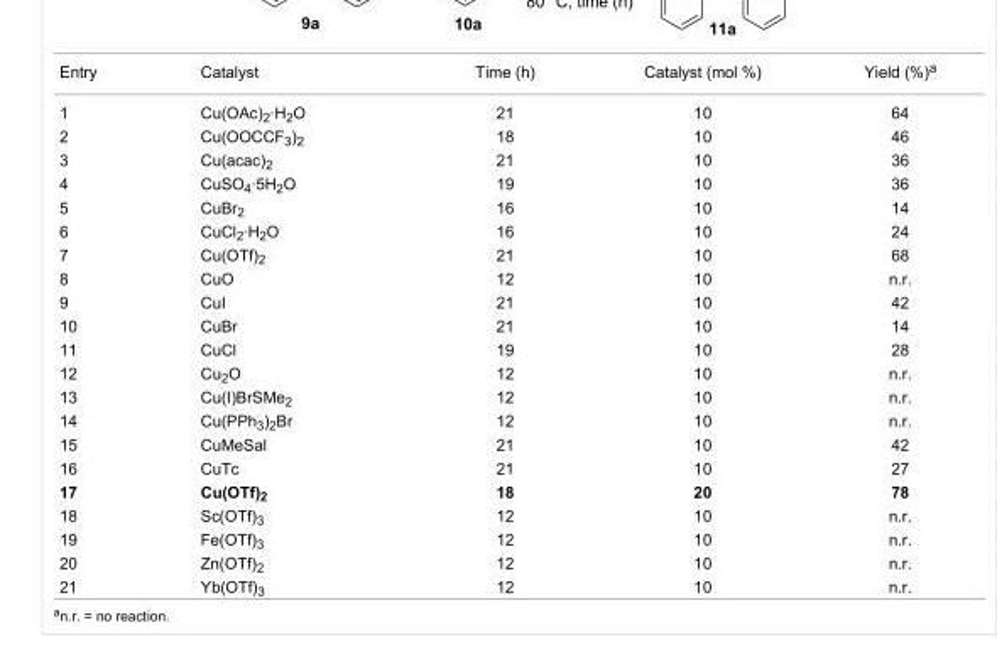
<table><tbody><tr><td>Entry</td><td>Catalyst</td><td>Time (h)</td><td>Catalyst (mol %)</td><td>Yield (%)<sup>a</sup></td></tr><tr><td>1</td><td>Cu(OAc)<sub>2</sub>·H<sub>2</sub>O</td><td>21</td><td>10</td><td>64</td></tr><tr><td>2</td><td>Cu(OOCCF<sub>3</sub>)<sub>2</sub></td><td>18</td><td>10</td><td>46</td></tr><tr><td>3</td><td>Cu(acac)<sub>2</sub></td><td>21</td><td>10</td><td>36</td></tr><tr><td>4</td><td>CuSO<sub>4</sub>·5H<sub>2</sub>O</td><td>19</td><td>10</td><td>36</td></tr><tr><td>5</td><td>CuBr<sub>2</sub></td><td>16</td><td>10</td><td>14</td></tr><tr><td>6</td><td>CuCl<sub>2</sub>·H<sub>2</sub>O</td><td>16</td><td>10</td><td>24</td></tr><tr><td>7</td><td>Cu(OTf)<sub>2</sub></td><td>21</td><td>10</td><td>68</td></tr><tr><td>8</td><td>CuO</td><td>12</td><td>10</td><td>n.r.</td></tr><tr><td>9</td><td>CuI</td><td>21</td><td>10</td><td>42</td></tr><tr><td>10</td><td>CuBr</td><td>21</td><td>10</td><td>14</td></tr><tr><td>11</td><td>CuCl</td><td>19</td><td>10</td><td>28</td></tr><tr><td>12</td><td>Cu<sub>2</sub>O</td><td>12</td><td>10</td><td>n.r.</td></tr><tr><td>13</td><td>Cu(I)BrSMe<sub>2</sub></td><td>12</td><td>10</td><td>n.r.</td></tr><tr><td>14</td><td>Cu(PPh<sub>3</sub>)<sub>2</sub>Br</td><td>12</td><td>10</td><td>n.r.</td></tr><tr><td>15</td><td>CuMeSal</td><td>21</td><td>10</td><td>42</td></tr><tr><td>16</td><td>CuTc</td><td>21</td><td>10</td><td>27</td></tr><tr><td>17</td><td>Cu(OTf)<sub>2</sub></td><td>18</td><td>20</td><td>78</td></tr><tr><td>18</td><td>Sc(OTf)<sub>3</sub></td><td>12</td><td>10</td><td>n.r.</td></tr><tr><td>19</td><td>Fe(OTf)<sub>3</sub></td><td>12</td><td>10</td><td>n.r.</td></tr><tr><td>20</td><td>Zn(OTf)<sub>2</sub></td><td>12</td><td>10</td><td>n.r.</td></tr><tr><td>21</td><td>Yb(OTf)<sub>3</sub></td><td>12</td><td>10</td><td>n.r.</td></tr></tbody></table>